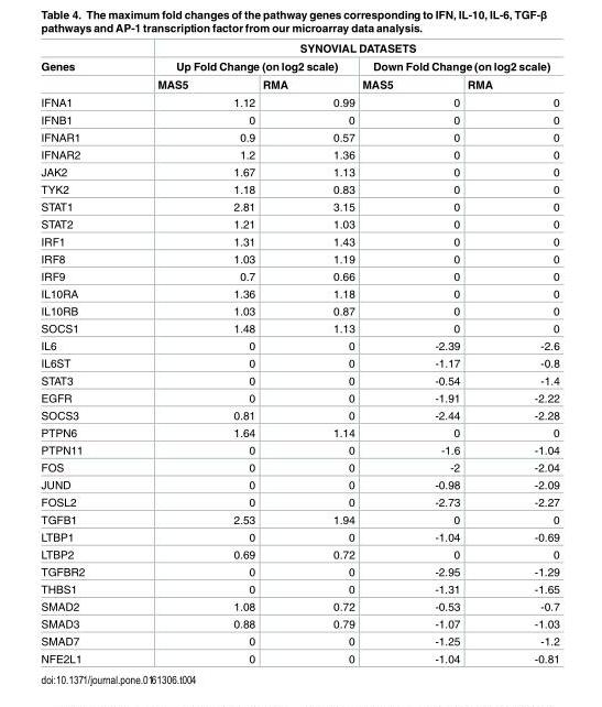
<table><thead><tr><td rowspan="3">Genes</td><td colspan="4">SYNOVIAL DATASETS</td></tr><tr><td colspan="2">Up Fold Change (on log2 scale)</td><td colspan="2">Down Fold Change (on log2 scale)</td></tr><tr><td>MAS5</td><td>RMA</td><td>MAS5</td><td>RMA</td></tr></thead><tbody><tr><td>IFNA1</td><td>1.12</td><td>0.99</td><td>0</td><td>0</td></tr><tr><td>IFNB1</td><td>0</td><td>0</td><td>0</td><td>0</td></tr><tr><td>IFNAR1</td><td>0.9</td><td>0.57</td><td>0</td><td>0</td></tr><tr><td>IFNAR2</td><td>1.2</td><td>1.36</td><td>0</td><td>0</td></tr><tr><td>JAK2</td><td>1.67</td><td>1.13</td><td>0</td><td>0</td></tr><tr><td>TYK2</td><td>1.18</td><td>0.83</td><td>0</td><td>0</td></tr><tr><td>STAT1</td><td>2.81</td><td>3.15</td><td>0</td><td>0</td></tr><tr><td>STAT2</td><td>1.21</td><td>1.03</td><td>0</td><td>0</td></tr><tr><td>IRF1</td><td>1.31</td><td>1.43</td><td>0</td><td>0</td></tr><tr><td>IRF8</td><td>1.03</td><td>1.19</td><td>0</td><td>0</td></tr><tr><td>IRF9</td><td>0.7</td><td>0.66</td><td>0</td><td>0</td></tr><tr><td>IL10RA</td><td>1.36</td><td>1.18</td><td>0</td><td>0</td></tr><tr><td>IL10RB</td><td>1.03</td><td>0.87</td><td>0</td><td>0</td></tr><tr><td>SOCS1</td><td>1.48</td><td>1.13</td><td>0</td><td>0</td></tr><tr><td>IL6</td><td>0</td><td>0</td><td>-2.39</td><td>-2.6</td></tr><tr><td>IL6ST</td><td>0</td><td>0</td><td>-1.17</td><td>-0.8</td></tr><tr><td>STAT3</td><td>0</td><td>0</td><td>-0.54</td><td>-1.4</td></tr><tr><td>EGFR</td><td>0</td><td>0</td><td>-1.91</td><td>-2.22</td></tr><tr><td>SOCS3</td><td>0.81</td><td>0</td><td>-2.44</td><td>-2.28</td></tr><tr><td>PTPN6</td><td>1.64</td><td>1.14</td><td>0</td><td>0</td></tr><tr><td>PTPN11</td><td>0</td><td>0</td><td>-1.6</td><td>-1.04</td></tr><tr><td>FOS</td><td>0</td><td>0</td><td>-2</td><td>-2.04</td></tr><tr><td>JUND</td><td>0</td><td>0</td><td>-0.98</td><td>-2.09</td></tr><tr><td>FOSL2</td><td>0</td><td>0</td><td>-2.73</td><td>-2.27</td></tr><tr><td>TGFB1</td><td>2.53</td><td>1.94</td><td>0</td><td>0</td></tr><tr><td>LTBP1</td><td>0</td><td>0</td><td>-1.04</td><td>-0.69</td></tr><tr><td>LTBP2</td><td>0.69</td><td>0.72</td><td>0</td><td>0</td></tr><tr><td>TGFBR2</td><td>0</td><td>0</td><td>-2.95</td><td>-1.29</td></tr><tr><td>THBS1</td><td>0</td><td>0</td><td>-1.31</td><td>-1.65</td></tr><tr><td>SMAD2</td><td>1.08</td><td>0.72</td><td>-0.53</td><td>-0.7</td></tr><tr><td>SMAD3</td><td>0.88</td><td>0.79</td><td>-1.07</td><td>-1.03</td></tr><tr><td>SMAD7</td><td>0</td><td>0</td><td>-1.25</td><td>-1.2</td></tr><tr><td>NFE2L1</td><td>0</td><td>0</td><td>-1.04</td><td>-0.81</td></tr></tbody></table>